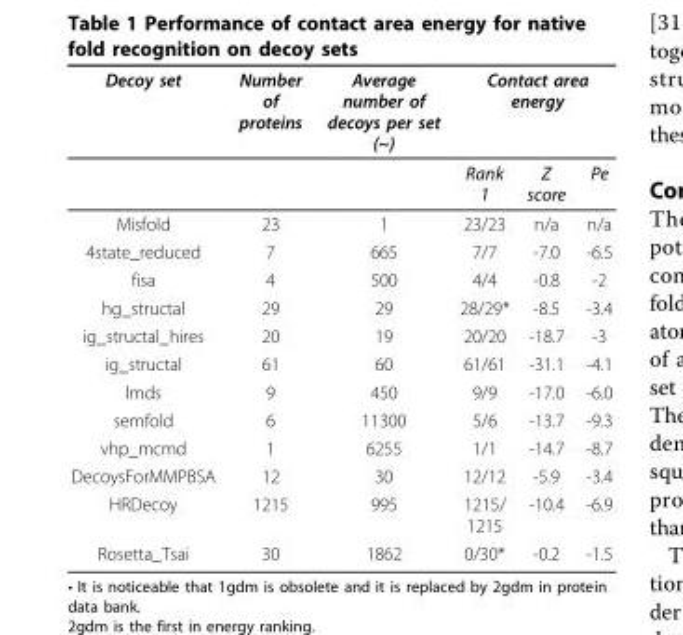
<table><thead><tr><td rowspan="2">Decoy set</td><td rowspan="2">Number of proteins</td><td rowspan="2">Average number of decoys per set (~)</td><td colspan="3">Contact area energy</td></tr><tr><td>Rank 1</td><td>Z score</td><td>Pe</td></tr></thead><tbody><tr><td>Misfold</td><td>23</td><td>1</td><td>23/23</td><td>n/a</td><td>n/a</td></tr><tr><td>4state_reduced</td><td>7</td><td>665</td><td>7/7</td><td>-7.0</td><td>-6.5</td></tr><tr><td>fisa</td><td>4</td><td>500</td><td>4/4</td><td>-0.8</td><td>-2</td></tr><tr><td>hg_structal</td><td>29</td><td>29</td><td>28/29*</td><td>-8.5</td><td>-3.4</td></tr><tr><td>ig_structal_hires</td><td>20</td><td>19</td><td>20/20</td><td>-18.7</td><td>-3</td></tr><tr><td>ig_structal</td><td>61</td><td>60</td><td>61/61</td><td>-31.1</td><td>-4.1</td></tr><tr><td>lmds</td><td>9</td><td>450</td><td>9/9</td><td>-17.0</td><td>-6.0</td></tr><tr><td>semfold</td><td>6</td><td>11300</td><td>5/6</td><td>-13.7</td><td>-9.3</td></tr><tr><td>vhp_mcmd</td><td>1</td><td>6255</td><td>1/1</td><td>-14.7</td><td>-8.7</td></tr><tr><td>DecoysForMMPBSA</td><td>12</td><td>30</td><td>12/12</td><td>-5.9</td><td>-3.4</td></tr><tr><td>HRDecoy</td><td>1215</td><td>995</td><td>1215/ 1215</td><td>-10.4</td><td>-6.9</td></tr><tr><td>Rosetta_Tsai</td><td>30</td><td>1862</td><td>0/30*</td><td>-0.2</td><td>-1.5</td></tr></tbody></table>